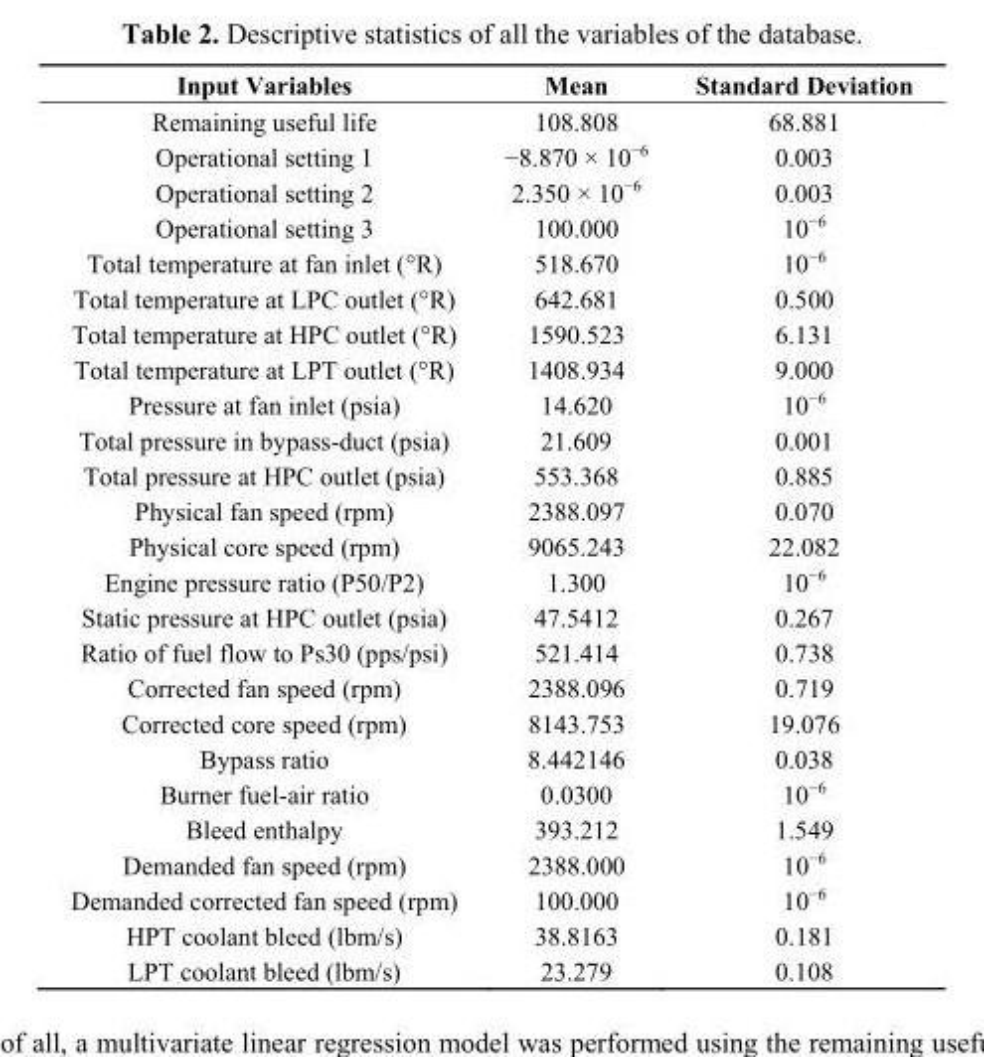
<table><thead><tr><td>Input Variables</td><td>Mean</td><td>Standard Deviation</td></tr></thead><tbody><tr><td>Remaining useful life</td><td>108.808</td><td>68.881</td></tr><tr><td>Operational setting 1</td><td>−8.870 × 10<sup>−6</sup></td><td>0.003</td></tr><tr><td>Operational setting 2</td><td>2.350 × 10<sup>−6</sup></td><td>0.003</td></tr><tr><td>Operational setting 3</td><td>100.000</td><td>10<sup>−6</sup></td></tr><tr><td>Total temperature at fan inlet (°R)</td><td>518.670</td><td>10<sup>−6</sup></td></tr><tr><td>Total temperature at LPC outlet (°R)</td><td>642.681</td><td>0.500</td></tr><tr><td>Total temperature at HPC outlet (°R)</td><td>1590.523</td><td>6.131</td></tr><tr><td>Total temperature at LPT outlet (°R)</td><td>1408.934</td><td>9.000</td></tr><tr><td>Pressure at fan inlet (psia)</td><td>14.620</td><td>10<sup>−6</sup></td></tr><tr><td>Total pressure in bypass-duct (psia)</td><td>21.609</td><td>0.001</td></tr><tr><td>Total pressure at HPC outlet (psia)</td><td>553.368</td><td>0.885</td></tr><tr><td>Physical fan speed (rpm)</td><td>2388.097</td><td>0.070</td></tr><tr><td>Physical core speed (rpm)</td><td>9065.243</td><td>22.082</td></tr><tr><td>Engine pressure ratio (P50/P2)</td><td>1.300</td><td>10<sup>−6</sup></td></tr><tr><td>Static pressure at HPC outlet (psia)</td><td>47.5412</td><td>0.267</td></tr><tr><td>Ratio of fuel flow to Ps30 (pps/psi)</td><td>521.414</td><td>0.738</td></tr><tr><td>Corrected fan speed (rpm)</td><td>2388.096</td><td>0.719</td></tr><tr><td>Corrected core speed (rpm)</td><td>8143.753</td><td>19.076</td></tr><tr><td>Bypass ratio</td><td>8.442146</td><td>0.038</td></tr><tr><td>Burner fuel-air ratio</td><td>0.0300</td><td>10<sup>−6</sup></td></tr><tr><td>Bleed enthalpy</td><td>393.212</td><td>1.549</td></tr><tr><td>Demanded fan speed (rpm)</td><td>2388.000</td><td>10<sup>−6</sup></td></tr><tr><td>Demanded corrected fan speed (rpm)</td><td>100.000</td><td>10<sup>−6</sup></td></tr><tr><td>HPT coolant bleed (lbm/s)</td><td>38.8163</td><td>0.181</td></tr><tr><td>LPT coolant bleed (lbm/s)</td><td>23.279</td><td>0.108</td></tr></tbody></table>